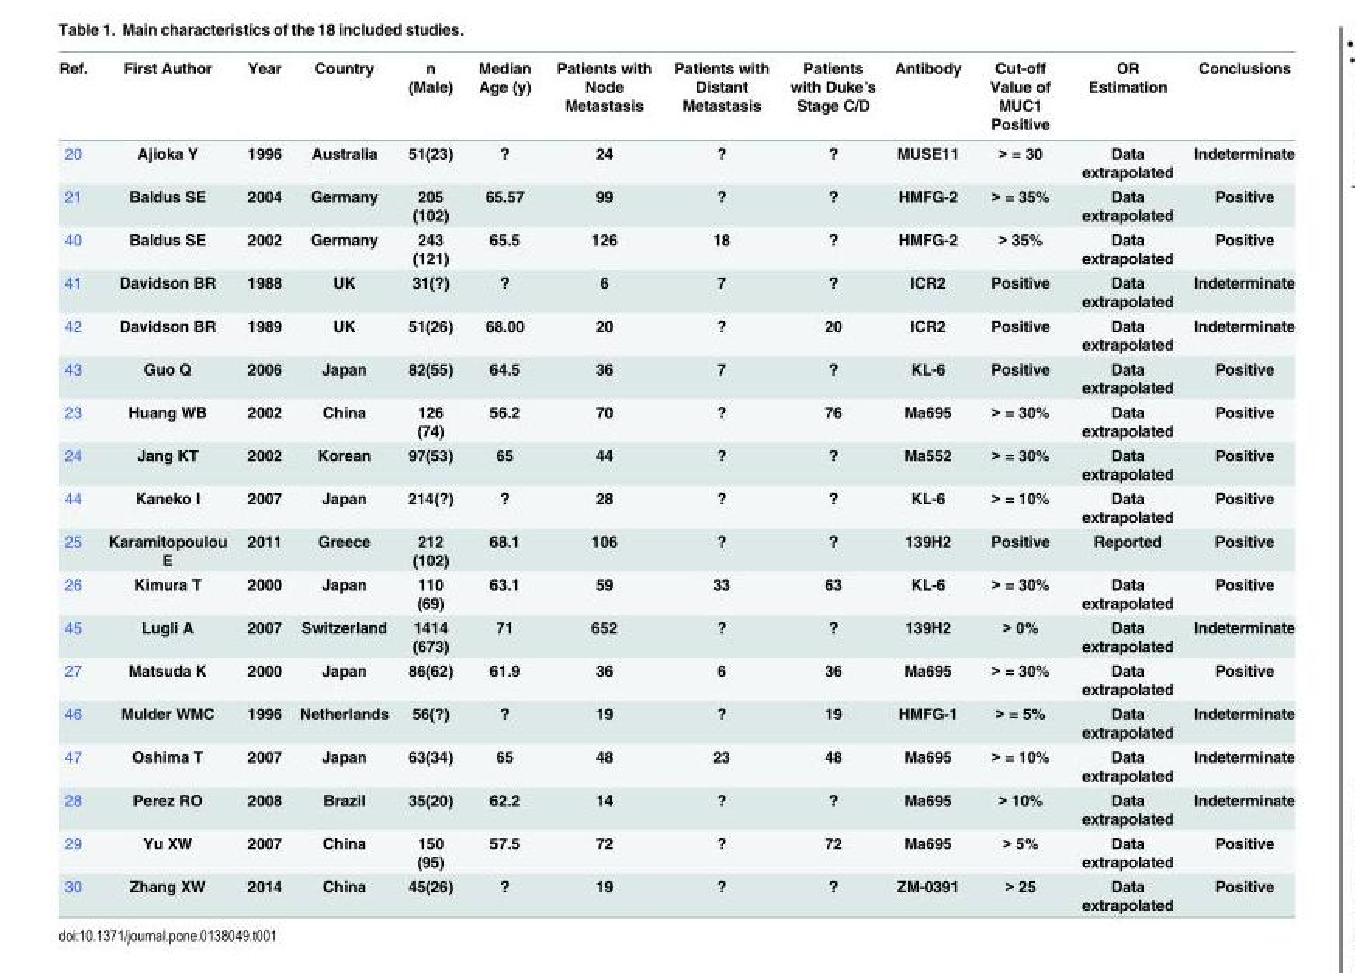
<table><thead><tr><td>Ref.</td><td>First Author</td><td>Year</td><td>Country</td><td>n (Male)</td><td>Median Age (y)</td><td>Patients with Node Metastasis</td><td>Patients with Distant Metastasis</td><td>Patients with Duke’s Stage C/D</td><td>Antibody</td><td>Cut-off Value of MUC1 Positive</td><td>OR Estimation</td><td>Conclusions</td></tr></thead><tbody><tr><td>20</td><td>Ajioka Y</td><td>1996</td><td>Australia</td><td>51(23)</td><td>?</td><td>24</td><td>?</td><td>?</td><td>MUSE11</td><td>&gt; = 30</td><td>Data extrapolated</td><td>Indeterminate</td></tr><tr><td>21</td><td>Baldus SE</td><td>2004</td><td>Germany</td><td>205 (102)</td><td>65.57</td><td>99</td><td>?</td><td>?</td><td>HMFG-2</td><td>&gt; = 35%</td><td>Data extrapolated</td><td>Positive</td></tr><tr><td>40</td><td>Baldus SE</td><td>2002</td><td>Germany</td><td>243 (121)</td><td>65.5</td><td>126</td><td>18</td><td>?</td><td>HMFG-2</td><td>&gt; 35%</td><td>Data extrapolated</td><td>Positive</td></tr><tr><td>41</td><td>Davidson BR</td><td>1988</td><td>UK</td><td>31(?)</td><td>?</td><td>6</td><td>7</td><td>?</td><td>ICR2</td><td>Positive</td><td>Data extrapolated</td><td>Indeterminate</td></tr><tr><td>42</td><td>Davidson BR</td><td>1989</td><td>UK</td><td>51(26)</td><td>68.00</td><td>20</td><td>?</td><td>20</td><td>ICR2</td><td>Positive</td><td>Data extrapolated</td><td>Indeterminate</td></tr><tr><td>43</td><td>Guo Q</td><td>2006</td><td>Japan</td><td>82(55)</td><td>64.5</td><td>36</td><td>7</td><td>?</td><td>KL-6</td><td>Positive</td><td>Data extrapolated</td><td>Positive</td></tr><tr><td>23</td><td>Huang WB</td><td>2002</td><td>China</td><td>126 (74)</td><td>56.2</td><td>70</td><td>?</td><td>76</td><td>Ma695</td><td>&gt; = 30%</td><td>Data extrapolated</td><td>Positive</td></tr><tr><td>24</td><td>Jang KT</td><td>2002</td><td>Korean</td><td>97(53)</td><td>65</td><td>44</td><td>?</td><td>?</td><td>Ma552</td><td>&gt; = 30%</td><td>Data extrapolated</td><td>Positive</td></tr><tr><td>44</td><td>Kaneko I</td><td>2007</td><td>Japan</td><td>214(?)</td><td>?</td><td>28</td><td>?</td><td>?</td><td>KL-6</td><td>&gt; = 10%</td><td>Data extrapolated</td><td>Positive</td></tr><tr><td>25</td><td>Karamitopoulou E</td><td>2011</td><td>Greece</td><td>212 (102)</td><td>68.1</td><td>106</td><td>?</td><td>?</td><td>139H2</td><td>Positive</td><td>Reported</td><td>Positive</td></tr><tr><td>26</td><td>Kimura T</td><td>2000</td><td>Japan</td><td>110 (69)</td><td>63.1</td><td>59</td><td>33</td><td>63</td><td>KL-6</td><td>&gt; = 30%</td><td>Data extrapolated</td><td>Positive</td></tr><tr><td>45</td><td>Lugli A</td><td>2007</td><td>Switzerland</td><td>1414 (673)</td><td>71</td><td>652</td><td>?</td><td>?</td><td>139H2</td><td>&gt; 0%</td><td>Data extrapolated</td><td>Indeterminate</td></tr><tr><td>27</td><td>Matsuda K</td><td>2000</td><td>Japan</td><td>86(62)</td><td>61.9</td><td>36</td><td>6</td><td>36</td><td>Ma695</td><td>&gt; = 30%</td><td>Data extrapolated</td><td>Positive</td></tr><tr><td>46</td><td>Mulder WMC</td><td>1996</td><td>Netherlands</td><td>56(?)</td><td>?</td><td>19</td><td>?</td><td>19</td><td>HMFG-1</td><td>&gt; = 5%</td><td>Data extrapolated</td><td>Indeterminate</td></tr><tr><td>47</td><td>Oshima T</td><td>2007</td><td>Japan</td><td>63(34)</td><td>65</td><td>48</td><td>23</td><td>48</td><td>Ma695</td><td>&gt; = 10%</td><td>Data extrapolated</td><td>Indeterminate</td></tr><tr><td>28</td><td>Perez RO</td><td>2008</td><td>Brazil</td><td>35(20)</td><td>62.2</td><td>14</td><td>?</td><td>?</td><td>Ma695</td><td>&gt; 10%</td><td>Data extrapolated</td><td>Indeterminate</td></tr><tr><td>29</td><td>Yu XW</td><td>2007</td><td>China</td><td>150 (95)</td><td>57.5</td><td>72</td><td>?</td><td>72</td><td>Ma695</td><td>&gt; 5%</td><td>Data extrapolated</td><td>Positive</td></tr><tr><td>30</td><td>Zhang XW</td><td>2014</td><td>China</td><td>45(26)</td><td>?</td><td>19</td><td>?</td><td>?</td><td>ZM-0391</td><td>&gt; 25</td><td>Data extrapolated</td><td>Positive</td></tr></tbody></table>